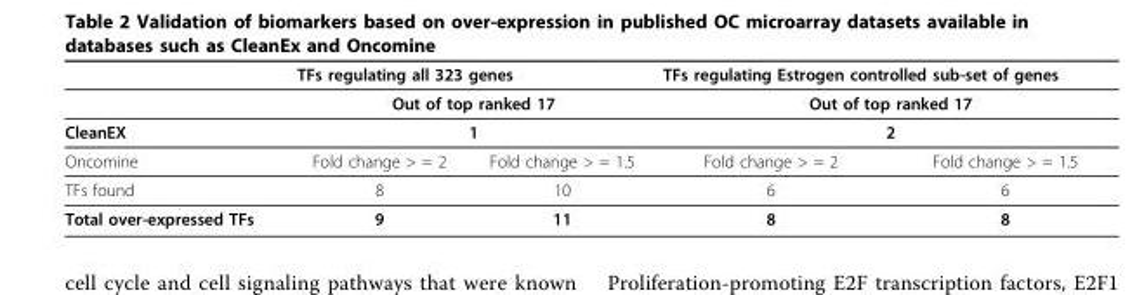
<table><thead><tr><td rowspan="4">CleanEX Oncomine</td><td rowspan="3" colspan="2">TFs regulating all 323 genes Out of top ranked 17 1</td><td rowspan="3" colspan="2">TFs regulating Estrogen controlled sub-set of genes Out of top ranked 17 2</td></tr><tr></tr><tr></tr><tr><td>Fold change &gt; = 2</td><td>Fold change &gt; = 1.5</td><td>Fold change &gt; = 2</td><td>Fold change &gt; = 1.5</td></tr></thead><tbody><tr><td>TFs found</td><td>8</td><td>10</td><td>6</td><td>6</td></tr><tr><td>Total over-expressed TFs</td><td>9</td><td>11</td><td>8</td><td>8</td></tr></tbody></table>